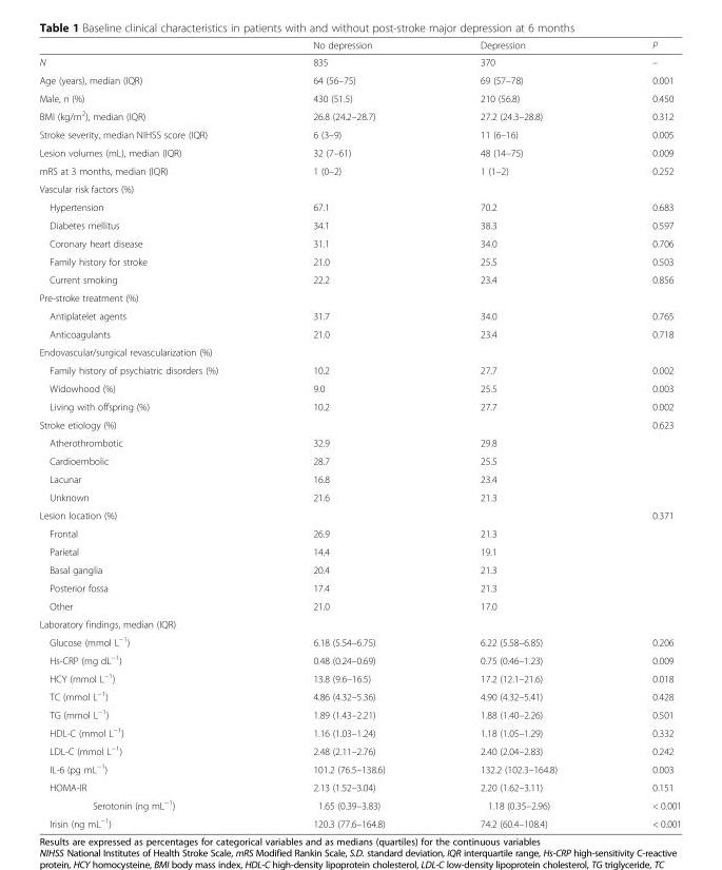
<table><thead><tr><td></td><td>No depression</td><td>Depression</td><td>P</td></tr></thead><tbody><tr><td>N</td><td>835</td><td>370</td><td>–</td></tr><tr><td>Age (years), median (IQR)</td><td>64 (56–75)</td><td>69 (57–78)</td><td>0.001</td></tr><tr><td>Male, n (%)</td><td>430 (51.5)</td><td>210 (56.8)</td><td>0.450</td></tr><tr><td>BMI (kg/m<sup>2</sup>), median (IQR)</td><td>26.8 (24.2–28.7)</td><td>27.2 (24.3–28.8)</td><td>0.312</td></tr><tr><td>Stroke severity, median NIHSS score (IQR)</td><td>6 (3–9)</td><td>11 (6–16)</td><td>0.005</td></tr><tr><td>Lesion volumes (mL), median (IQR)</td><td>32 (7–61)</td><td>48 (14–75)</td><td>0.009</td></tr><tr><td>mRS at 3 months, median (IQR)</td><td>1 (0–2)</td><td>1 (1–2)</td><td>0.252</td></tr><tr><td colspan="4">Vascular risk factors (%)</td></tr><tr><td>Hypertension</td><td>67.1</td><td>70.2</td><td>0.683</td></tr><tr><td>Diabetes mellitus</td><td>34.1</td><td>38.3</td><td>0.597</td></tr><tr><td>Coronary heart disease</td><td>31.1</td><td>34.0</td><td>0.706</td></tr><tr><td>Family history for stroke</td><td>21.0</td><td>25.5</td><td>0.503</td></tr><tr><td>Current smoking</td><td>22.2</td><td>23.4</td><td>0.856</td></tr><tr><td colspan="4">Pre-stroke treatment (%)</td></tr><tr><td>Antiplatelet agents</td><td>31.7</td><td>34.0</td><td>0.765</td></tr><tr><td>Anticoagulants</td><td>21.0</td><td>23.4</td><td>0.718</td></tr><tr><td colspan="4">Endovascular/surgical revascularization (%)</td></tr><tr><td>Family history of psychiatric disorders (%)</td><td>10.2</td><td>27.7</td><td>0.002</td></tr><tr><td>Widowhood (%)</td><td>9.0</td><td>25.5</td><td>0.003</td></tr><tr><td>Living with offspring (%)</td><td>10.2</td><td>27.7</td><td>0.002</td></tr><tr><td>Stroke etiology (%)</td><td></td><td></td><td>0.623</td></tr><tr><td>Atherothrombotic</td><td>32.9</td><td>29.8</td><td rowspan="4"></td></tr><tr><td>Cardioembolic</td><td>28.7</td><td>25.5</td></tr><tr><td>Lacunar</td><td>16.8</td><td>23.4</td></tr><tr><td>Unknown</td><td>21.6</td><td>21.3</td></tr><tr><td>Lesion location (%)</td><td></td><td></td><td>0.371</td></tr><tr><td>Frontal</td><td>26.9</td><td>21.3</td><td rowspan="5"></td></tr><tr><td>Parietal</td><td>14.4</td><td>19.1</td></tr><tr><td>Basal ganglia</td><td>20.4</td><td>21.3</td></tr><tr><td>Posterior fossa</td><td>17.4</td><td>21.3</td></tr><tr><td>Other</td><td>21.0</td><td>17.0</td></tr><tr><td colspan="4">Laboratory findings, median (IQR)</td></tr><tr><td>Glucose (mmol L<sup>−1</sup>)</td><td>6.18 (5.54–6.75)</td><td>6.22 (5.58–6.85)</td><td>0.206</td></tr><tr><td>Hs-CRP (mg dL<sup>−1</sup>)</td><td>0.48 (0.24–0.69)</td><td>0.75 (0.46–1.23)</td><td>0.009</td></tr><tr><td>HCY (mmol L<sup>−1</sup>)</td><td>13.8 (9.6–16.5)</td><td>17.2 (12.1–21.6)</td><td>0.018</td></tr><tr><td>TC (mmol L<sup>−1</sup>)</td><td>4.86 (4.32–5.36)</td><td>4.90 (4.32–5.41)</td><td>0.428</td></tr><tr><td>TG (mmol L<sup>−1</sup>)</td><td>1.89 (1.43–2.21)</td><td>1.88 (1.40–2.26)</td><td>0.501</td></tr><tr><td>HDL-C (mmol L<sup>−1</sup>)</td><td>1.16 (1.03–1.24)</td><td>1.18 (1.05–1.29)</td><td>0.332</td></tr><tr><td>LDL-C (mmol L<sup>−1</sup>)</td><td>2.48 (2.11–2.76)</td><td>2.40 (2.04–2.83)</td><td>0.242</td></tr><tr><td>IL-6 (pg mL<sup>−1</sup>)</td><td>101.2 (76.5–138.6)</td><td>132.2 (102.3–164.8)</td><td>0.003</td></tr><tr><td>HOMA-IR</td><td>2.13 (1.52–3.04)</td><td>2.20 (1.62–3.11)</td><td>0.151</td></tr><tr><td>Serotonin (ng mL<sup>−1</sup>)</td><td>1.65 (0.39–3.83)</td><td>1.18 (0.35–2.96)</td><td>&lt; 0.001</td></tr><tr><td>Irisin (ng mL<sup>−1</sup>)</td><td>120.3 (77.6–164.8)</td><td>74.2 (60.4–108.4)</td><td>&lt; 0.001</td></tr></tbody></table>